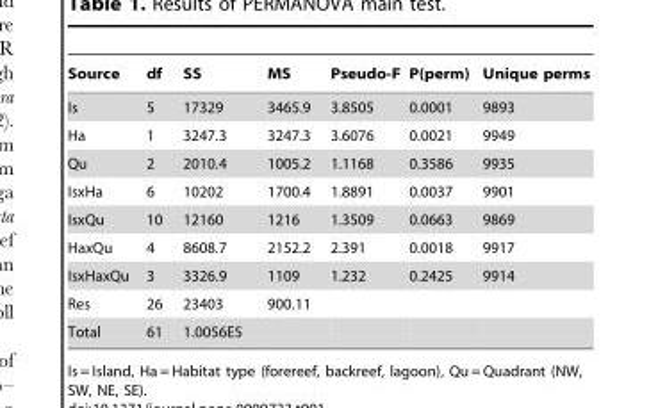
<table><thead><tr><td>Source</td><td>df</td><td>SS</td><td>MS</td><td>Pseudo-F</td><td>P(perm)</td><td>Unique perms</td></tr></thead><tbody><tr><td>Is</td><td>5</td><td>17329</td><td>3465.9</td><td>3.8505</td><td>0.0001</td><td>9893</td></tr><tr><td>Ha</td><td>1</td><td>3247.3</td><td>3247.3</td><td>3.6076</td><td>0.0021</td><td>9949</td></tr><tr><td>Qu</td><td>2</td><td>2010.4</td><td>1005.2</td><td>1.1168</td><td>0.3586</td><td>9935</td></tr><tr><td>IsxHa</td><td>6</td><td>10202</td><td>1700.4</td><td>1.8891</td><td>0.0037</td><td>9901</td></tr><tr><td>IsxQu</td><td>10</td><td>12160</td><td>1216</td><td>1.3509</td><td>0.0663</td><td>9869</td></tr><tr><td>HaxQu</td><td>4</td><td>8608.7</td><td>2152.2</td><td>2.391</td><td>0.0018</td><td>9917</td></tr><tr><td>IsxHaxQu</td><td>3</td><td>3326.9</td><td>1109</td><td>1.232</td><td>0.2425</td><td>9914</td></tr><tr><td>Res</td><td>26</td><td>23403</td><td>900.11</td><td></td><td></td><td></td></tr><tr><td>Total</td><td>61</td><td>1.0056E5</td><td></td><td></td><td></td><td></td></tr></tbody></table>